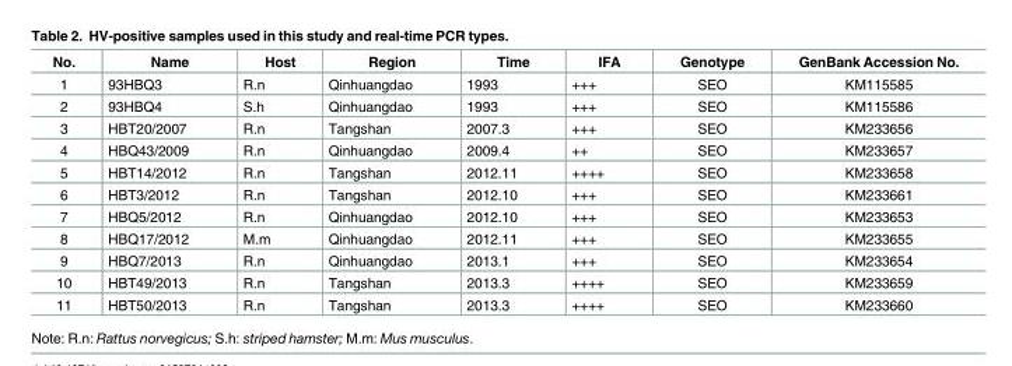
<table><thead><tr><td>No.</td><td>Name</td><td>Host</td><td>Region</td><td>Time</td><td>IFA</td><td>Genotype</td><td>GenBank Accession No.</td></tr></thead><tbody><tr><td>1</td><td>93HBQ3</td><td>R.n</td><td>Qinhuangdao</td><td>1993</td><td>+++</td><td>SEO</td><td>KM115585</td></tr><tr><td>2</td><td>93HBQ4</td><td>S.h</td><td>Qinhuangdao</td><td>1993</td><td>+++</td><td>SEO</td><td>KM115586</td></tr><tr><td>3</td><td>HBT20/2007</td><td>R.n</td><td>Tangshan</td><td>2007.3</td><td>+++</td><td>SEO</td><td>KM233656</td></tr><tr><td>4</td><td>HBQ43/2009</td><td>R.n</td><td>Qinhuangdao</td><td>2009.4</td><td>++</td><td>SEO</td><td>KM233657</td></tr><tr><td>5</td><td>HBT14/2012</td><td>R.n</td><td>Tangshan</td><td>2012.11</td><td>++++</td><td>SEO</td><td>KM233658</td></tr><tr><td>6</td><td>HBT3/2012</td><td>R.n</td><td>Tangshan</td><td>2012.10</td><td>+++</td><td>SEO</td><td>KM233661</td></tr><tr><td>7</td><td>HBQ5/2012</td><td>R.n</td><td>Qinhuangdao</td><td>2012.10</td><td>+++</td><td>SEO</td><td>KM233653</td></tr><tr><td>8</td><td>HBQ17/2012</td><td>M.m</td><td>Qinhuangdao</td><td>2012.11</td><td>+++</td><td>SEO</td><td>KM233655</td></tr><tr><td>9</td><td>HBQ7/2013</td><td>R.n</td><td>Qinhuangdao</td><td>2013.1</td><td>+++</td><td>SEO</td><td>KM233654</td></tr><tr><td>10</td><td>HBT49/2013</td><td>R.n</td><td>Tangshan</td><td>2013.3</td><td>++++</td><td>SEO</td><td>KM233659</td></tr><tr><td>11</td><td>HBT50/2013</td><td>R.n</td><td>Tangshan</td><td>2013.3</td><td>++++</td><td>SEO</td><td>KM233660</td></tr></tbody></table>